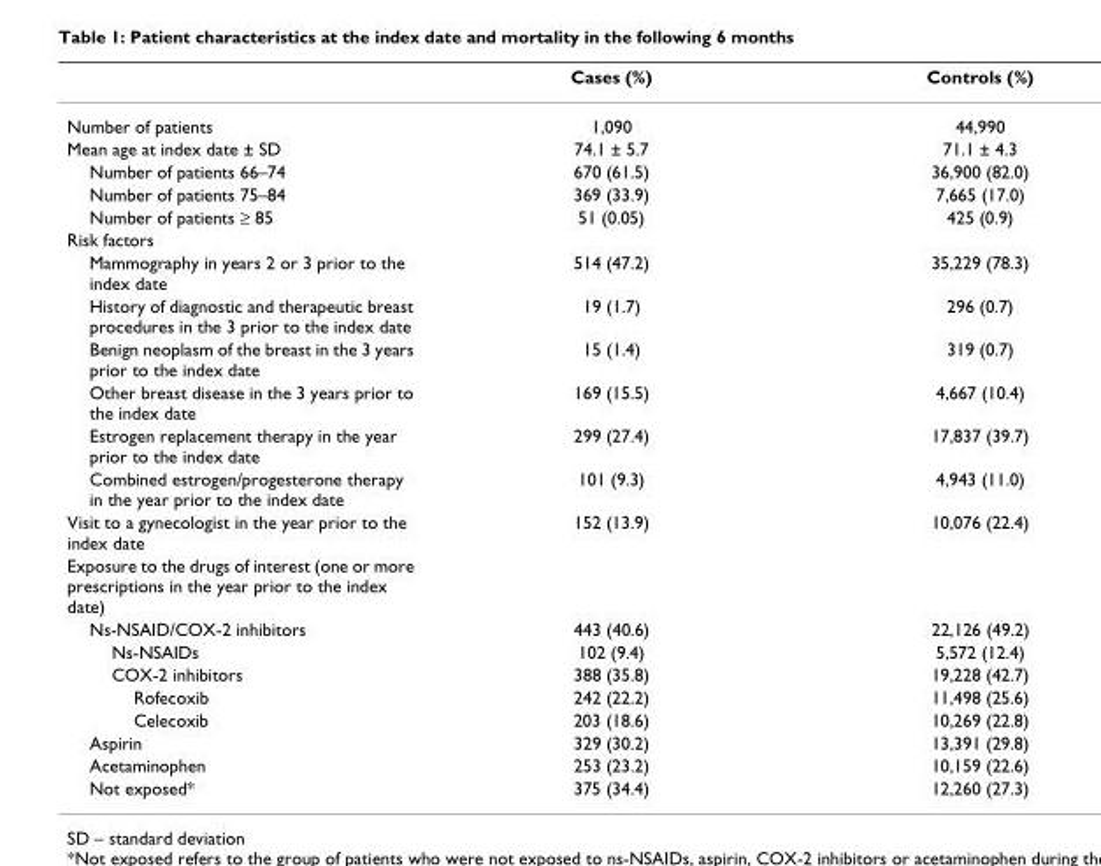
<table><thead><tr><td></td><td>Cases (%)</td><td>Controls (%)</td></tr></thead><tbody><tr><td>Number of patients</td><td>1,090</td><td>44,990</td></tr><tr><td>Mean age at index date ± SD</td><td>74.1 ± 5.7</td><td>71.1 ± 4.3</td></tr><tr><td>Number of patients 66–74</td><td>670 (61.5)</td><td>36,900 (82.0)</td></tr><tr><td>Number of patients 75–84</td><td>369 (33.9)</td><td>7,665 (17.0)</td></tr><tr><td>Number of patients ≥ 85</td><td>51 (0.05)</td><td>425 (0.9)</td></tr><tr><td colspan="3">Risk factors</td></tr><tr><td>Mammography in years 2 or 3 prior to the index date</td><td>514 (47.2)</td><td>35,229 (78.3)</td></tr><tr><td>History of diagnostic and therapeutic breast procedures in the 3 prior to the index date</td><td>19 (1.7)</td><td>296 (0.7)</td></tr><tr><td>Benign neoplasm of the breast in the 3 years prior to the index date</td><td>15 (1.4)</td><td>319 (0.7)</td></tr><tr><td>Other breast disease in the 3 years prior to the index date</td><td>169 (15.5)</td><td>4,667 (10.4)</td></tr><tr><td>Estrogen replacement therapy in the year prior to the index date</td><td>299 (27.4)</td><td>17,837 (39.7)</td></tr><tr><td>Combined estrogen/progesterone therapy in the year prior to the index date</td><td>101 (9.3)</td><td>4,943 (11.0)</td></tr><tr><td>Visit to a gynecologist in the year prior to the index date</td><td>152 (13.9)</td><td>10,076 (22.4)</td></tr><tr><td colspan="3">Exposure to the drugs of interest (one or more prescriptions in the year prior to the index date)</td></tr><tr><td>Ns-NSAID/COX-2 inhibitors</td><td>443 (40.6)</td><td>22,126 (49.2)</td></tr><tr><td>Ns-NSAIDs</td><td>102 (9.4)</td><td>5,572 (12.4)</td></tr><tr><td>COX-2 inhibitors</td><td>388 (35.8)</td><td>19,228 (42.7)</td></tr><tr><td>Rofecoxib</td><td>242 (22.2)</td><td>11,498 (25.6)</td></tr><tr><td>Celecoxib</td><td>203 (18.6)</td><td>10,269 (22.8)</td></tr><tr><td>Aspirin</td><td>329 (30.2)</td><td>13,391 (29.8)</td></tr><tr><td>Acetaminophen</td><td>253 (23.2)</td><td>10,159 (22.6)</td></tr><tr><td>Not exposed*</td><td>375 (34.4)</td><td>12,260 (27.3)</td></tr></tbody></table>